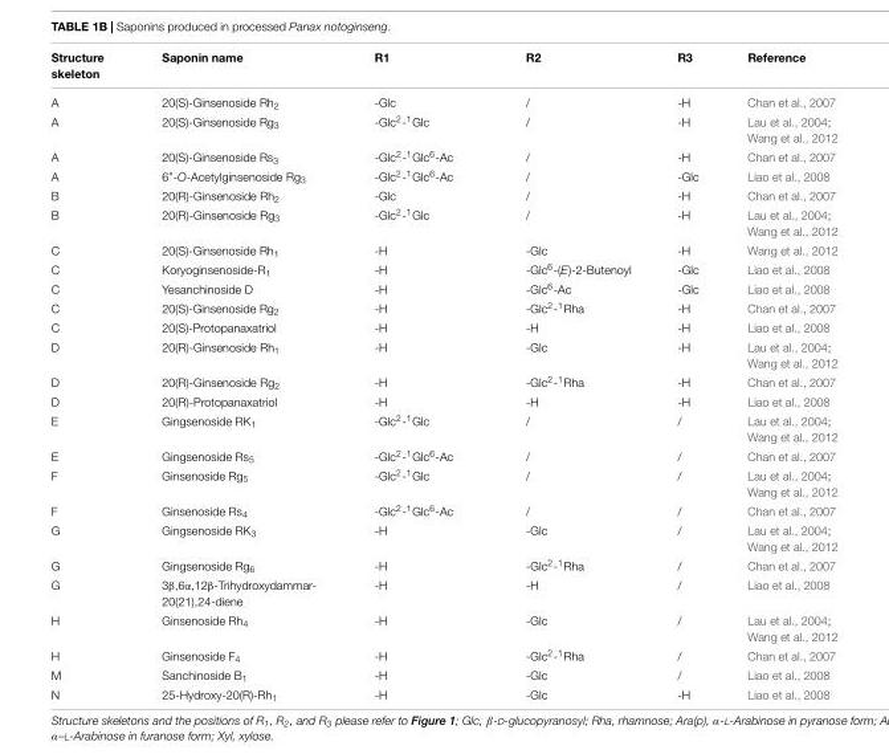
<table><thead><tr><td>Structure skeleton</td><td>Saponin name</td><td>R1</td><td>R2</td><td>R3</td><td>Reference</td></tr></thead><tbody><tr><td>A</td><td>20(S)-Ginsenoside Rh<sub>2</sub></td><td>-Glc</td><td>/</td><td>-H</td><td>Chan et al., 2007</td></tr><tr><td>A</td><td>20(S)-Ginsenoside Rg<sub>3</sub></td><td>-Glc<sup>2</sup>-<sup>1</sup>Glc</td><td>/</td><td>-H</td><td>Lau et al., 2004; Wang et al., 2012</td></tr><tr><td>A</td><td>20(S)-Ginsenoside Rs<sub>3</sub></td><td>-Glc<sup>2</sup>-<sup>1</sup>Glc<sup>6</sup>-Ac</td><td>/</td><td>-H</td><td>Chan et al., 2007</td></tr><tr><td>A</td><td>6”-O-Acetylginsenoside Rg<sub>3</sub></td><td>-Glc<sup>2</sup>-<sup>1</sup>Glc<sup>6</sup>-Ac</td><td>/</td><td>-Glc</td><td>Liao et al., 2008</td></tr><tr><td>B</td><td>20(R)-Ginsenoside Rh<sub>2</sub></td><td>-Glc</td><td>/</td><td>-H</td><td>Chan et al., 2007</td></tr><tr><td>B</td><td>20(R)-Ginsenoside Rg<sub>3</sub></td><td>-Glc<sup>2</sup>-<sup>1</sup>Glc</td><td>/</td><td>-H</td><td>Lau et al., 2004; Wang et al., 2012</td></tr><tr><td>C</td><td>20(S)-Ginsenoside Rh<sub>1</sub></td><td>-H</td><td>-Glc</td><td>-H</td><td>Wang et al., 2012</td></tr><tr><td>C</td><td>Koryoginsenoside-R<sub>1</sub></td><td>-H</td><td>-Glc<sup>6</sup>-(E)-2-Butenoyl</td><td>-Glc</td><td>Liao et al., 2008</td></tr><tr><td>C</td><td>Yesanchinoside D</td><td>-H</td><td>-Glc<sup>6</sup>-Ac</td><td>-Glc</td><td>Liao et al., 2008</td></tr><tr><td>C</td><td>20(S)-Ginsenoside Rg<sub>2</sub></td><td>-H</td><td>-Glc<sup>2</sup>-<sup>1</sup>Rha</td><td>-H</td><td>Chan et al., 2007</td></tr><tr><td>C</td><td>20(S)-Protopanaxatriol</td><td>-H</td><td>-H</td><td>-H</td><td>Liao et al., 2008</td></tr><tr><td>D</td><td>20(R)-Ginsenoside Rh<sub>1</sub></td><td>-H</td><td>-Glc</td><td>-H</td><td>Lau et al., 2004; Wang et al., 2012</td></tr><tr><td>D</td><td>20(R)-Ginsenoside Rg<sub>2</sub></td><td>-H</td><td>-Glc<sup>2</sup>-<sup>1</sup>Rha</td><td>-H</td><td>Chan et al., 2007</td></tr><tr><td>D</td><td>20(R)-Protopanaxatriol</td><td>-H</td><td>-H</td><td>-H</td><td>Liao et al., 2008</td></tr><tr><td>E</td><td>Gingsenoside RK<sub>1</sub></td><td>-Glc<sup>2</sup>-<sup>1</sup>Glc</td><td>/</td><td>/</td><td>Lau et al., 2004; Wang et al., 2012</td></tr><tr><td>E</td><td>Gingsenoside Rs<sub>5</sub></td><td>-Glc<sup>2</sup>-<sup>1</sup>Glc<sup>6</sup>-Ac</td><td>/</td><td>/</td><td>Chan et al., 2007</td></tr><tr><td>F</td><td>Ginsenoside Rg<sub>5</sub></td><td>-Glc<sup>2</sup>-<sup>1</sup>Glc</td><td>/</td><td>/</td><td>Lau et al., 2004; Wang et al., 2012</td></tr><tr><td>F</td><td>Ginsenoside Rs<sub>4</sub></td><td>-Glc<sup>2</sup>-<sup>1</sup>Glc<sup>6</sup>-Ac</td><td>/</td><td>/</td><td>Chan et al., 2007</td></tr><tr><td>G</td><td>Gingsenoside RK<sub>3</sub></td><td>-H</td><td>-Glc</td><td>/</td><td>Lau et al., 2004; Wang et al., 2012</td></tr><tr><td>G</td><td>Gingsenoside Rg<sub>6</sub></td><td>-H</td><td>-Glc<sup>2</sup>-<sup>1</sup>Rha</td><td>/</td><td>Chan et al., 2007</td></tr><tr><td>G</td><td>3β,6α,12β-Trihydroxydammar- 20(21),24-diene</td><td>-H</td><td>-H</td><td>/</td><td>Liao et al., 2008</td></tr><tr><td>H</td><td>Ginsenoside Rh<sub>4</sub></td><td>-H</td><td>-Glc</td><td>/</td><td>Lau et al., 2004; Wang et al., 2012</td></tr><tr><td>H</td><td>Ginsenoside F<sub>4</sub></td><td>-H</td><td>-Glc<sup>2</sup>-<sup>1</sup>Rha</td><td>/</td><td>Chan et al., 2007</td></tr><tr><td>M</td><td>Sanchinoside B<sub>1</sub></td><td>-H</td><td>-Glc</td><td>/</td><td>Liao et al., 2008</td></tr><tr><td>N</td><td>25-Hydroxy-20(R)-Rh<sub>1</sub></td><td>-H</td><td>-Glc</td><td>-H</td><td>Liao et al., 2008</td></tr></tbody></table>